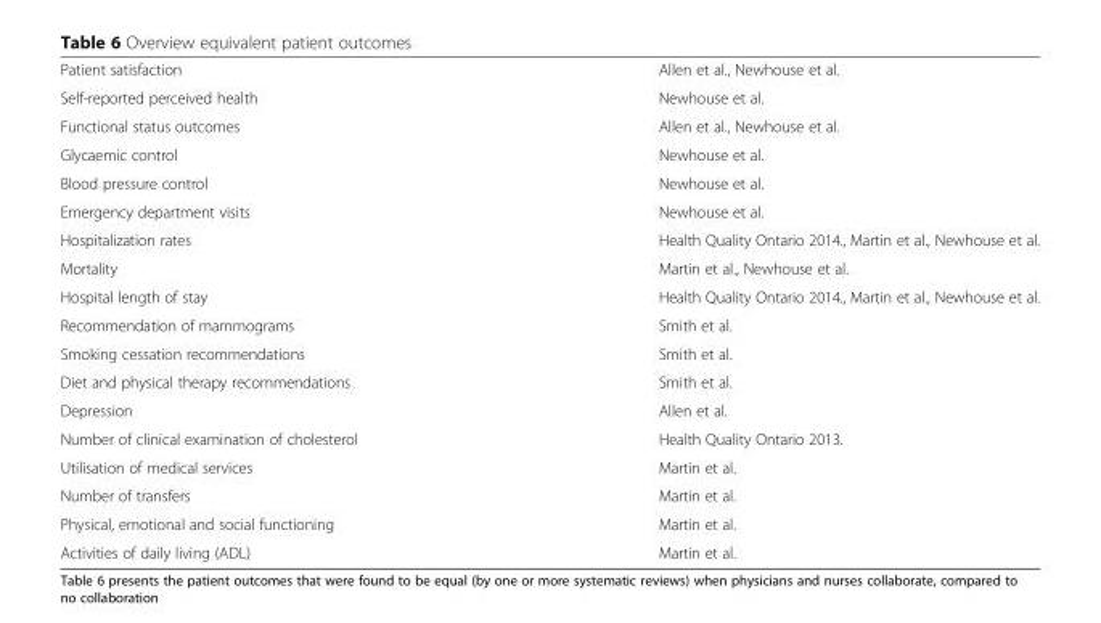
<table><tbody><tr><td>Patient satisfaction</td><td>Allen et al., Newhouse et al.</td></tr><tr><td>Self-reported perceived health</td><td>Newhouse et al.</td></tr><tr><td>Functional status outcomes</td><td>Allen et al., Newhouse et al.</td></tr><tr><td>Glycaemic control</td><td>Newhouse et al.</td></tr><tr><td>Blood pressure control</td><td>Newhouse et al.</td></tr><tr><td>Emergency department visits</td><td>Newhouse et al.</td></tr><tr><td>Hospitalization rates</td><td>Health Quality Ontario 2014., Martin et al., Newhouse et al.</td></tr><tr><td>Mortality</td><td>Martin et al., Newhouse et al.</td></tr><tr><td>Hospital length of stay</td><td>Health Quality Ontario 2014., Martin et al., Newhouse et al.</td></tr><tr><td>Recommendation of mammograms</td><td>Smith et al.</td></tr><tr><td>Smoking cessation recommendations</td><td>Smith et al.</td></tr><tr><td>Diet and physical therapy recommendations</td><td>Smith et al.</td></tr><tr><td>Depression</td><td>Allen et al.</td></tr><tr><td>Number of clinical examination of cholesterol</td><td>Health Quality Ontario 2013.</td></tr><tr><td>Utilisation of medical services</td><td>Martin et al.</td></tr><tr><td>Number of transfers</td><td>Martin et al.</td></tr><tr><td>Physical, emotional and social functioning</td><td>Martin et al.</td></tr><tr><td>Activities of daily living (ADL)</td><td>Martin et al.</td></tr></tbody></table>